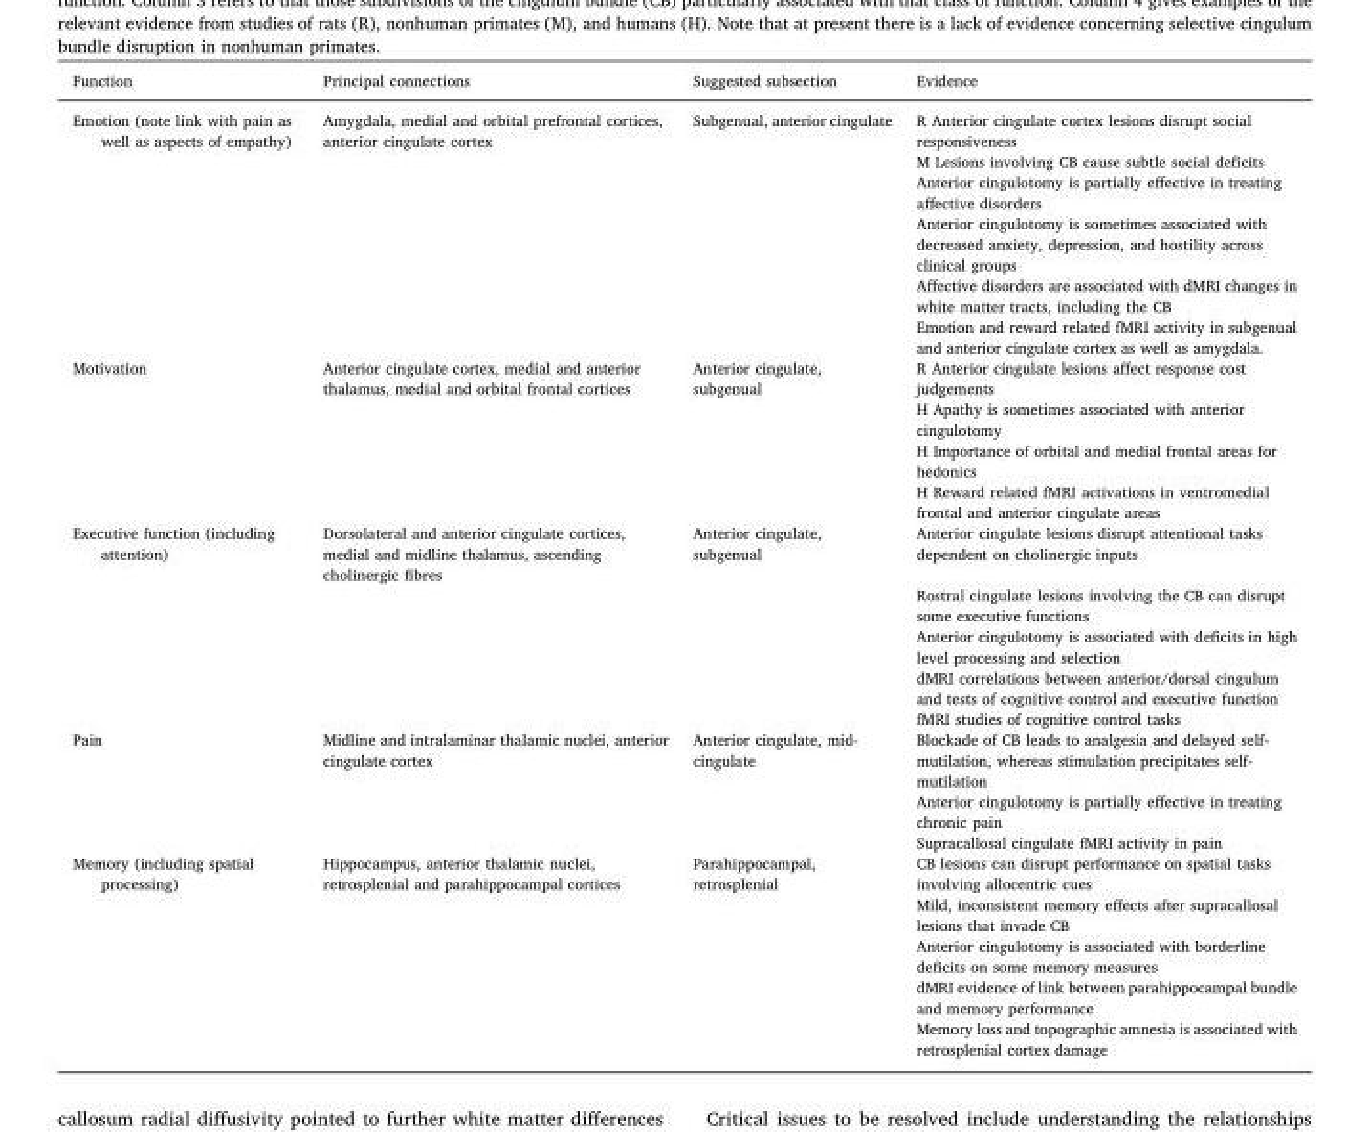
<table><thead><tr><td>Function</td><td>Principal connections</td><td>Suggested subsection</td><td>Evidence</td></tr></thead><tbody><tr><td rowspan="5">Emotion (note link with pain as well as aspects of empathy)</td><td>Amygdala, medial and orbital prefrontal cortices, anterior cingulate cortex</td><td>Subgenual, anterior cingulate</td><td>R Anterior cingulate cortex lesions disrupt social responsiveness</td></tr><tr><td></td><td></td><td>M Lesions involving CB cause subtle social deficits Anterior cingulotomy is partially effective in treating affective disorders</td></tr><tr><td></td><td></td><td>Anterior cingulotomy is sometimes associated with decreased anxiety, depression, and hostility across clinical groups</td></tr><tr><td></td><td></td><td>Affective disorders are associated with dMRI changes in white matter tracts, including the CB</td></tr><tr><td></td><td></td><td>Emotion and reward related fMRI activity in subgenual and anterior cingulate cortex as well as amygdala.</td></tr><tr><td rowspan="4">Motivation</td><td>Anterior cingulate cortex, medial and anterior thalamus, medial and orbital frontal cortices</td><td>Anterior cingulate, subgenual</td><td>R Anterior cingulate lesions affect response cost judgements</td></tr><tr><td></td><td></td><td>H Apathy is sometimes associated with anterior cingulotomy</td></tr><tr><td></td><td></td><td>H Importance of orbital and medial frontal areas for hedonics</td></tr><tr><td></td><td></td><td>H Reward related fMRI activations in ventromedial frontal and anterior cingulate areas</td></tr><tr><td rowspan="5">Executive function (including attention)</td><td>Dorsolateral and anterior cingulate cortices, medial and midline thalamus, ascending cholinergic fibres</td><td>Anterior cingulate, subgenual</td><td>Anterior cingulate lesions disrupt attentional tasks dependent on cholinergic inputs</td></tr><tr><td></td><td></td><td>Rostral cingulate lesions involving the CB can disrupt some executive functions</td></tr><tr><td></td><td></td><td>Anterior cingulotomy is associated with deficits in high level processing and selection</td></tr><tr><td></td><td></td><td>dMRI correlations between anterior/dorsal cingulum and tests of cognitive control and executive function</td></tr><tr><td></td><td></td><td>fMRI studies of cognitive control tasks</td></tr><tr><td rowspan="3">Pain</td><td>Midline and intralaminar thalamic nuclei, anterior cingulate cortex</td><td>Anterior cingulate, mid- cingulate</td><td>Blockade of CB leads to analgesia and delayed self- mutilation, whereas stimulation precipitates self- mutilation</td></tr><tr><td></td><td></td><td>Anterior cingulotomy is partially effective in treating chronic pain</td></tr><tr><td></td><td></td><td>Supracallosal cingulate fMRI activity in pain</td></tr><tr><td rowspan="5">Memory (including spatial processing)</td><td>Hippocampus, anterior thalamic nuclei, retrosplenial and parahippocampal cortices</td><td>Parahippocampal, retrosplenial</td><td>CB lesions can disrupt performance on spatial tasks involving allocentric cues</td></tr><tr><td></td><td></td><td>Mild, inconsistent memory effects after supracallosal lesions that invade CB</td></tr><tr><td></td><td></td><td>Anterior cingulotomy is associated with borderline deficits on some memory measures</td></tr><tr><td></td><td></td><td>dMRI evidence of link between parahippocampal bundle and memory performance</td></tr><tr><td></td><td></td><td>Memory loss and topographic amnesia is associated with retrosplenial cortex damage</td></tr></tbody></table>